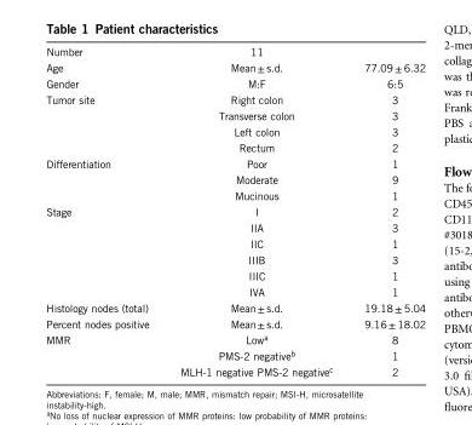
<table><tbody><tr><td>Number</td><td>11</td><td></td></tr><tr><td>Age</td><td>Mean ± s.d.</td><td>77.09 ± 6.32</td></tr><tr><td>Gender</td><td>M:F</td><td>6:5</td></tr><tr><td rowspan="4">Tumor site</td><td>Right colon</td><td>3</td></tr><tr><td>Transverse colon</td><td>3</td></tr><tr><td>Left colon</td><td>3</td></tr><tr><td>Rectum</td><td>2</td></tr><tr><td rowspan="3">Differentiation</td><td>Poor</td><td>1</td></tr><tr><td>Moderate</td><td>9</td></tr><tr><td>Mucinous</td><td>1</td></tr><tr><td rowspan="6">Stage</td><td>I</td><td>2</td></tr><tr><td>IIA</td><td>3</td></tr><tr><td>IIC</td><td>1</td></tr><tr><td>IIIB</td><td>3</td></tr><tr><td>IIIC</td><td>1</td></tr><tr><td>IVA</td><td>1</td></tr><tr><td>Histology nodes (total)</td><td>Mean ± s.d.</td><td>19.18 ± 5.04</td></tr><tr><td>Percent nodes positive</td><td>Mean ± s.d.</td><td>9.16± 18.02</td></tr><tr><td rowspan="3">MMR</td><td>Low<sup>a</sup></td><td>8</td></tr><tr><td>PMS-2 negative<sup>b</sup></td><td>1</td></tr><tr><td>MLH-1 negative PMS-2 negative<sup>c</sup></td><td>2</td></tr></tbody></table>